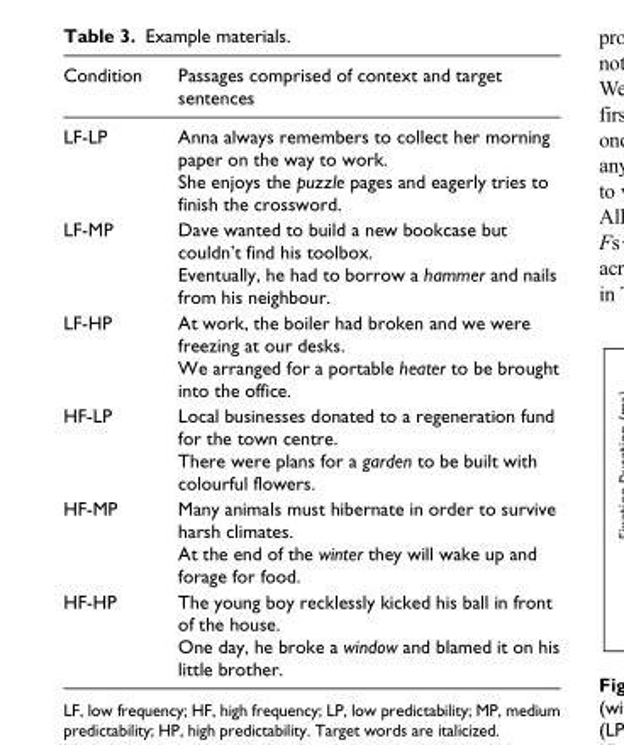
<table><thead><tr><td>Condition</td><td>Passages comprised of context and target sentences</td></tr></thead><tbody><tr><td>LF-LP</td><td>Anna always remembers to collect her morning paper on the way to work. She enjoys the puzzle pages and eagerly tries to finish the crossword.</td></tr><tr><td>LF-MP</td><td>Dave wanted to build a new bookcase but couldn’t find his toolbox. Eventually, he had to borrow a hammer and nails from his neighbour.</td></tr><tr><td>LF-HP</td><td>At work, the boiler had broken and we were freezing at our desks. We arranged for a portable heater to be brought into the office.</td></tr><tr><td>HF-LP</td><td>Local businesses donated to a regeneration fund for the town centre. There were plans for a garden to be built with colourful flowers.</td></tr><tr><td>HF-MP</td><td>Many animals must hibernate in order to survive harsh climates. At the end of the winter they will wake up and forage for food.</td></tr><tr><td>HF-HP</td><td>The young boy recklessly kicked his ball in front of the house. One day, he broke a window and blamed it on his little brother.</td></tr></tbody></table>